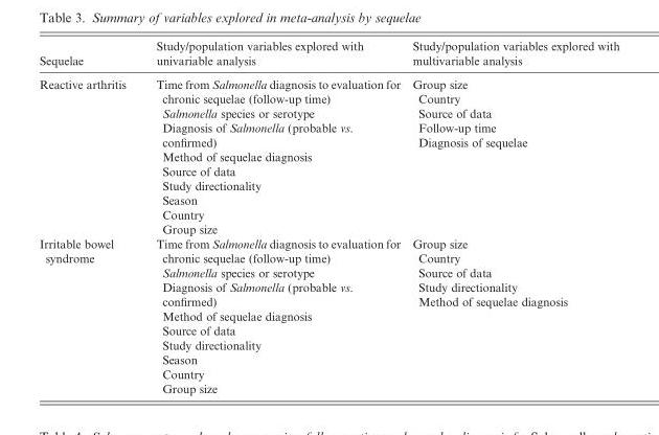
<table><thead><tr><td>Sequelae</td><td>Study/population variables explored with univariable analysis</td><td>Study/population variables explored with multivariable analysis</td></tr></thead><tbody><tr><td>Reactive arthritis</td><td>Time from Salmonella diagnosis to evaluation for chronic sequelae (follow-up time) Salmonella species or serotype Diagnosis of Salmonella (probable vs. confirmed) Method of sequelae diagnosis Source of data Study directionality Season Country Group size</td><td>Group size Country Source of data Follow-up time Diagnosis of sequelae</td></tr><tr><td>Irritable bowel syndrome</td><td>Time from Salmonella diagnosis to evaluation for chronic sequelae (follow-up time) Salmonella species or serotype Diagnosis of Salmonella (probable vs. confirmed) Method of sequelae diagnosis Source of data Study directionality Season Country Group size</td><td>Group size Country Source of data Study directionality Method of sequelae diagnosis</td></tr></tbody></table>